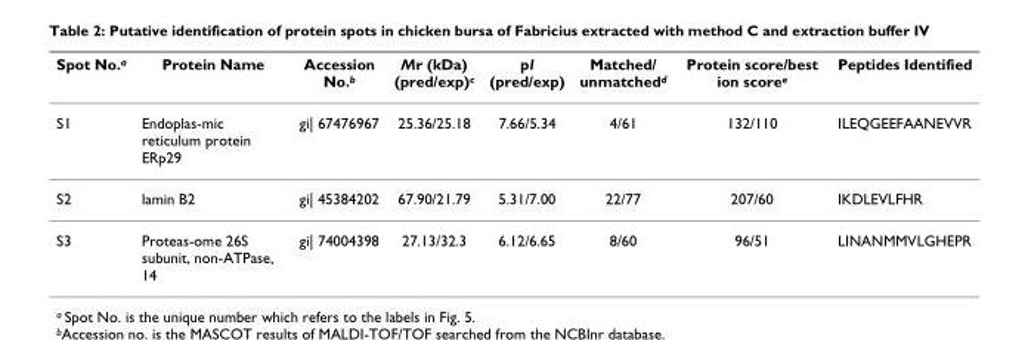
<table><thead><tr><td>Spot No.<sup>a</sup></td><td>Protein Name</td><td>Accession No.<sup>b</sup></td><td>Mr (kDa) (pred/exp)<sup>c</sup></td><td>pI (pred/exp)</td><td>Matched/ unmatched<sup>d</sup></td><td>Protein score/best ion score<sup>e</sup></td><td>Peptides Identified</td></tr></thead><tbody><tr><td>S1</td><td>Endoplas-mic reticulum protein ERp29</td><td>gi| 67476967</td><td>25.36/25.18</td><td>7.66/5.34</td><td>4/61</td><td>132/110</td><td>ILEQGEEFAANEVVR</td></tr><tr><td>S2</td><td>lamin B2</td><td>gi| 45384202</td><td>67.90/21.79</td><td>5.31/7.00</td><td>22/77</td><td>207/60</td><td>IKDLEVLFHR</td></tr><tr><td>S3</td><td>Proteas-ome 26S subunit, non-ATPase, 14</td><td>gi| 74004398</td><td>27.13/32.3</td><td>6.12/6.65</td><td>8/60</td><td>96/51</td><td>LINANMMVLGHEPR</td></tr></tbody></table>